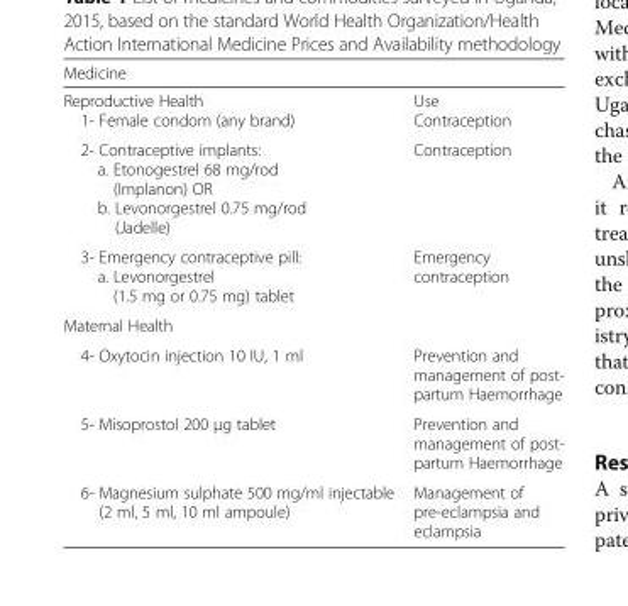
<table><thead><tr><td colspan="2">Medicine</td></tr><tr><td>Reproductive Health</td><td>Use</td></tr></thead><tbody><tr><td>1- Female condom (any brand)</td><td>Contraception</td></tr><tr><td>2- Contraceptive implants: a. Etonogestrel 68 mg/rod (Implanon) OR b. Levonorgestrel 0.75 mg/rod (Jadelle)</td><td>Contraception</td></tr><tr><td>3- Emergency contraceptive pill: a. Levonorgestrel (1.5 mg or 0.75 mg) tablet</td><td>Emergency contraception</td></tr><tr><td colspan="2">Maternal Health</td></tr><tr><td>4- Oxytocin injection 10 IU, 1 ml</td><td>Prevention and management of post- partum Haemorrhage</td></tr><tr><td>5- Misoprostol 200 μg tablet</td><td>Prevention and management of post- partum Haemorrhage</td></tr><tr><td>6- Magnesium sulphate 500 mg/ml injectable (2 ml, 5 ml, 10 ml ampoule)</td><td>Management of pre-eclampsia and eclampsia</td></tr></tbody></table>